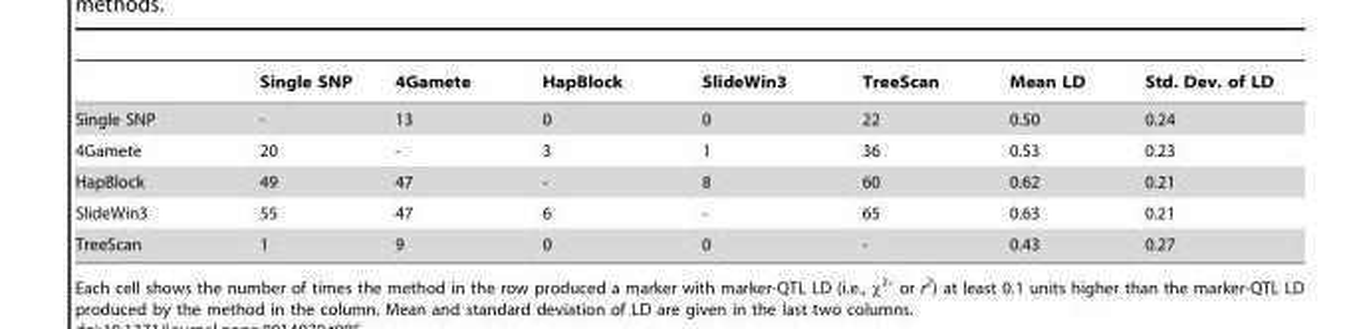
<table><thead><tr><td></td><td>Single SNP</td><td>4Gamete</td><td>HapBlock</td><td>SlideWin3</td><td>TreeScan</td><td>Mean LD</td><td>Std. Dev. of LD</td></tr></thead><tbody><tr><td>Single SNP</td><td>-</td><td>13</td><td>0</td><td>0</td><td>22</td><td>0.50</td><td>0.24</td></tr><tr><td>4Gamete</td><td>20</td><td>-</td><td>3</td><td>1</td><td>36</td><td>0.53</td><td>0.23</td></tr><tr><td>HapBlock</td><td>49</td><td>47</td><td>-</td><td>8</td><td>60</td><td>0.62</td><td>0.21</td></tr><tr><td>SlideWin3</td><td>55</td><td>47</td><td>6</td><td>-</td><td>65</td><td>0.63</td><td>0.21</td></tr><tr><td>TreeScan</td><td>1</td><td>9</td><td>0</td><td>0</td><td>-</td><td>0.43</td><td>0.27</td></tr></tbody></table>